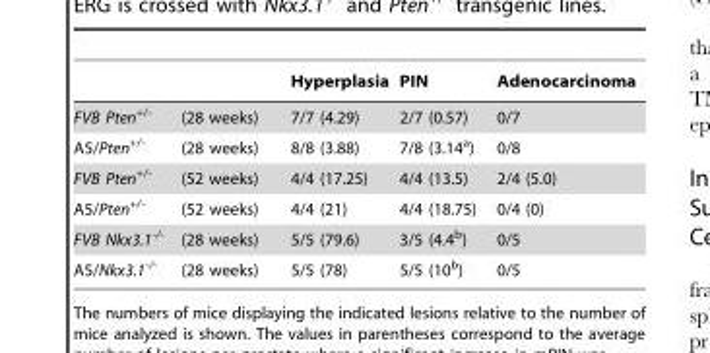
<table><thead><tr><td></td><td>Hyperplasia</td><td>PIN</td><td>Adenocarcinoma</td></tr></thead><tbody><tr><td>FVB Pten<sup>+/-</sup> (28 weeks)</td><td>7/7 (4.29)</td><td>2/7 (0.57)</td><td>0/7</td></tr><tr><td>A5/Pten<sup>+/-</sup> (28 weeks)</td><td>8/8 (3.88)</td><td>7/8 (3.14<sup>a</sup>)</td><td>0/8</td></tr><tr><td>FVB Pten<sup>+/-</sup> (52 weeks)</td><td>4/4 (17.25)</td><td>4/4 (13.5)</td><td>2/4 (5.0)</td></tr><tr><td>A5/Pten<sup>+/-</sup> (52 weeks)</td><td>4/4 (21)</td><td>4/4 (18.75)</td><td>0/4 (0)</td></tr><tr><td>FVB Nkx3.1<sup>-/-</sup> (28 weeks)</td><td>5/5 (79.6)</td><td>3/5 (4.4<sup>b</sup>)</td><td>0/5</td></tr><tr><td>A5/Nkx3.1<sup>-/-</sup> (28 weeks)</td><td>5/5 (78)</td><td>5/5 (10<sup>b</sup>)</td><td>0/5</td></tr></tbody></table>